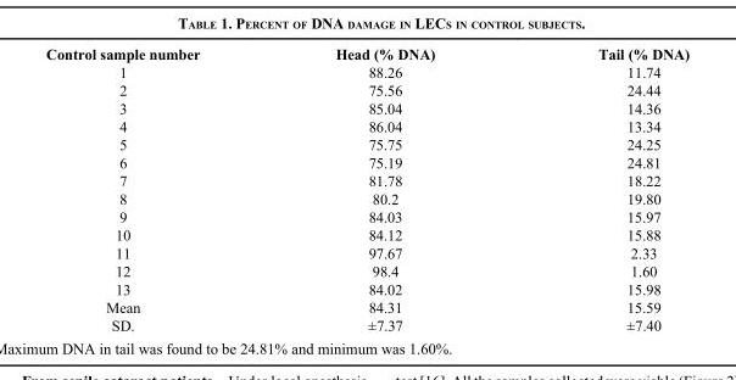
<table><thead><tr><td>Control sample number</td><td>Head (% DNA)</td><td>Tail (% DNA)</td></tr></thead><tbody><tr><td>1</td><td>88.26</td><td>11.74</td></tr><tr><td>2</td><td>75.56</td><td>24.44</td></tr><tr><td>3</td><td>85.04</td><td>14.36</td></tr><tr><td>4</td><td>86.04</td><td>13.34</td></tr><tr><td>5</td><td>75.75</td><td>24.25</td></tr><tr><td>6</td><td>75.19</td><td>24.81</td></tr><tr><td>7</td><td>81.78</td><td>18.22</td></tr><tr><td>8</td><td>80.2</td><td>19.80</td></tr><tr><td>9</td><td>84.03</td><td>15.97</td></tr><tr><td>10</td><td>84.12</td><td>15.88</td></tr><tr><td>11</td><td>97.67</td><td>2.33</td></tr><tr><td>12</td><td>98.4</td><td>1.60</td></tr><tr><td>13</td><td>84.02</td><td>15.98</td></tr><tr><td>Mean</td><td>84.31</td><td>15.59</td></tr><tr><td>SD.</td><td>±7.37</td><td>±7.40</td></tr></tbody></table>